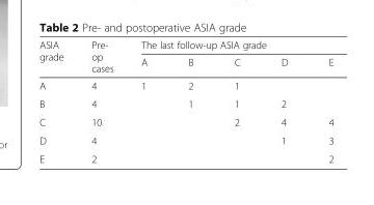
<table><thead><tr><td rowspan="2">ASIA grade</td><td rowspan="2">Pre- op cases</td><td colspan="5">The last follow-up ASIA grade</td></tr><tr><td>A</td><td>B</td><td>C</td><td>D</td><td>E</td></tr></thead><tbody><tr><td>A</td><td>4</td><td>1</td><td>2</td><td>1</td><td></td><td></td></tr><tr><td>B</td><td>4</td><td></td><td>1</td><td>1</td><td>2</td><td></td></tr><tr><td>C</td><td>10</td><td></td><td></td><td>2</td><td>4</td><td>4</td></tr><tr><td>D</td><td>4</td><td></td><td></td><td></td><td>1</td><td>3</td></tr><tr><td>E</td><td>2</td><td></td><td></td><td></td><td></td><td>2</td></tr></tbody></table>